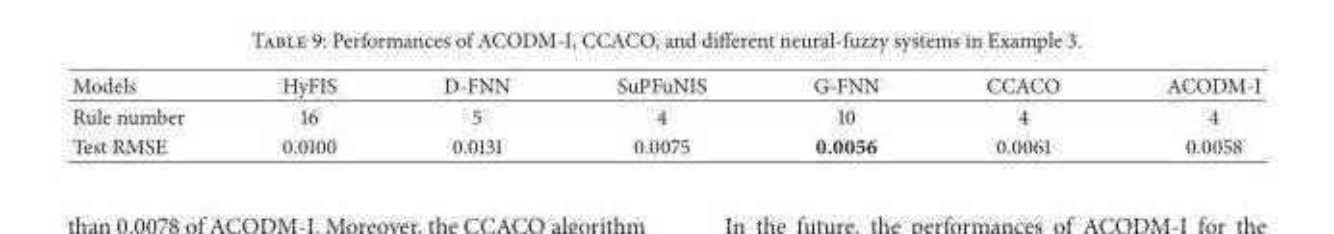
<table><thead><tr><td>Models</td><td>HyFIS</td><td>D-FNN</td><td>SuPFuNIS</td><td>G-FNN</td><td>CCACO</td><td>ACODM-I</td></tr></thead><tbody><tr><td>Rule number</td><td>16</td><td>5</td><td>4</td><td>10</td><td>4</td><td>4</td></tr><tr><td>Test RMSE</td><td>0.0100</td><td>0.0131</td><td>0.0075</td><td>0.0056</td><td>0.0061</td><td>0.0058</td></tr></tbody></table>